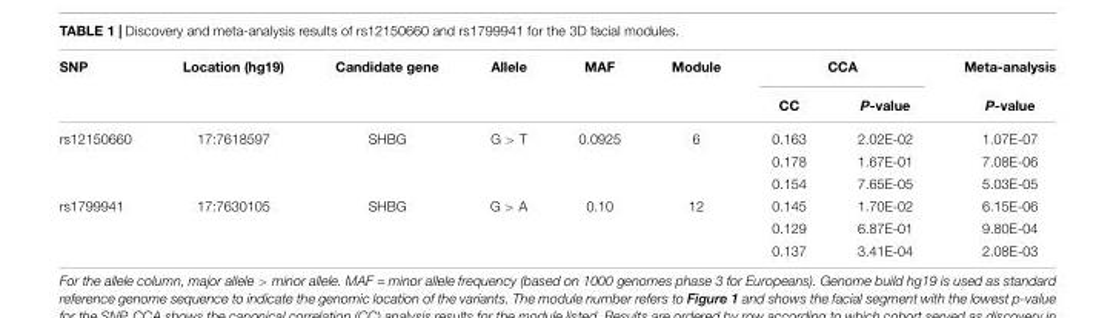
<table><thead><tr><td rowspan="2">SNP</td><td rowspan="2">Location (hg19)</td><td rowspan="2">Candidate gene</td><td rowspan="2">Allele</td><td rowspan="2">MAF</td><td rowspan="2">Module</td><td colspan="2">CCA</td><td rowspan="2">Meta-analysis P-value</td></tr><tr><td>CC</td><td>P-value</td></tr></thead><tbody><tr><td rowspan="3">rs12150660</td><td>17:7618597</td><td>SHBG</td><td>G &gt; T</td><td>0.0925</td><td>6</td><td>0.163</td><td>2.02E-02</td><td>1.07E-07</td></tr><tr><td></td><td></td><td></td><td></td><td></td><td>0.178</td><td>1.67E-01</td><td>7.08E-06</td></tr><tr><td></td><td></td><td></td><td></td><td></td><td>0.154</td><td>7.65E-05</td><td>5.03E-05</td></tr><tr><td rowspan="3">rs1799941</td><td>17:7630105</td><td>SHBG</td><td>G &gt; A</td><td>0.10</td><td>12</td><td>0.145</td><td>1.70E-02</td><td>6.15E-06</td></tr><tr><td></td><td></td><td></td><td></td><td></td><td>0.129</td><td>6.87E-01</td><td>9.80E-04</td></tr><tr><td></td><td></td><td></td><td></td><td></td><td>0.137</td><td>3.41E-04</td><td>2.08E-03</td></tr></tbody></table>